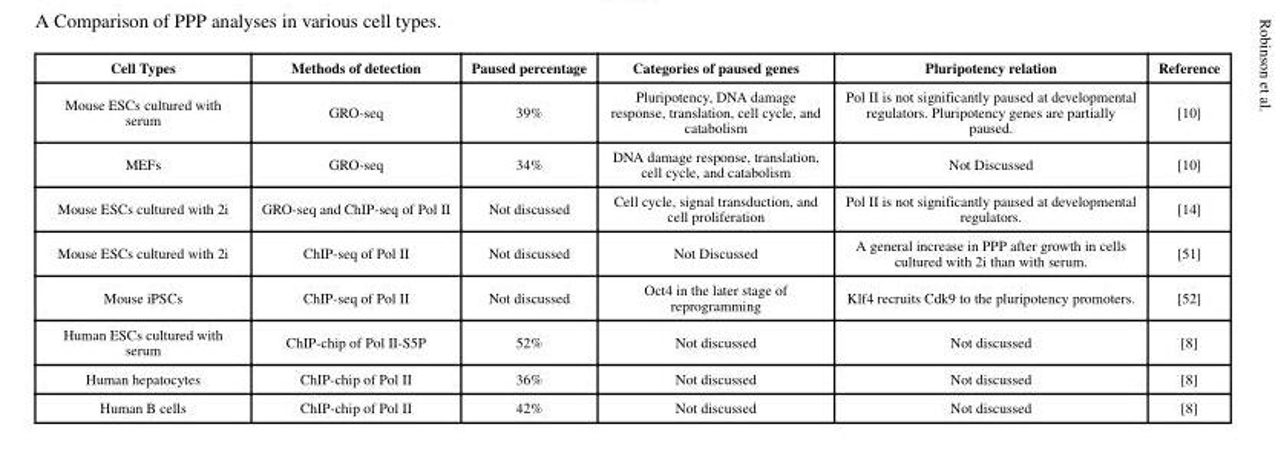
<table><thead><tr><td>Cell Types</td><td>Methods of detection</td><td>Paused percentage</td><td>Categories of paused genes</td><td>Pluripotency relation</td><td>Reference</td></tr></thead><tbody><tr><td>Mouse ESCs cultured with serum</td><td>GRO-seq</td><td>39%</td><td>Pluripotency, DNA damage response, translation, cell cycle, and catabolism</td><td>Pol II is not significantly paused at developmental regulators. Pluripotency genes are partially paused.</td><td>[10]</td></tr><tr><td>MEFs</td><td>GRO-seq</td><td>34%</td><td>DNA damage response, translation, cell cycle, and catabolism</td><td>Not Discussed</td><td>[10]</td></tr><tr><td>Mouse ESCs cultured with 2i</td><td>GRO-seq and ChIP-seq of Pol II</td><td>Not discussed</td><td>Cell cycle, signal transduction, and cell proliferation</td><td>Pol II is not significantly paused at developmental regulators.</td><td>[14]</td></tr><tr><td>Mouse ESCs cultured with 2i</td><td>ChIP-seq of Pol II</td><td>Not discussed</td><td>Not Discussed</td><td>A general increase in PPP after growth in cells cultured with 2i than with serum.</td><td>[51]</td></tr><tr><td>Mouse iPSCs</td><td>ChIP-seq of Pol II</td><td>Not discussed</td><td>Oct4 in the later stage of reprogramming</td><td>Klf4 recruits Cdk9 to the pluripotency promoters.</td><td>[52]</td></tr><tr><td>Human ESCs cultured with serum</td><td>ChIP-chip of Pol II-S5P</td><td>52%</td><td>Not discussed</td><td>Not discussed</td><td>[8]</td></tr><tr><td>Human hepatocytes</td><td>ChIP-chip of Pol II</td><td>36%</td><td>Not discussed</td><td>Not discussed</td><td>[8]</td></tr><tr><td>Human B cells</td><td>ChIP-chip of Pol II</td><td>42%</td><td>Not discussed</td><td>Not discussed</td><td>[8]</td></tr></tbody></table>